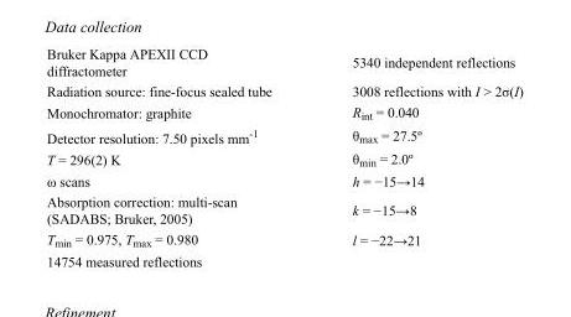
<table><tbody><tr><td>Bruker Kappa APEXII CCD diffractometer</td><td>5340 independent reflections</td></tr><tr><td>Radiation source: fine-focus sealed tube</td><td>3008 reflections with I &gt; 2σ(I)</td></tr><tr><td>Monochromator: graphite</td><td>R<sub>int</sub> = 0.040</td></tr><tr><td>Detector resolution: 7.50 pixels mm<sup>-1</sup></td><td>θ<sub>max</sub> = 27.5º</td></tr><tr><td>T = 296(2) K</td><td>θ<sub>min</sub> = 2.0º</td></tr><tr><td>ω scans</td><td>h = −15→14</td></tr><tr><td>Absorption correction: multi-scan (SADABS; Bruker, 2005)</td><td>k = −15→8</td></tr><tr><td>T<sub>min</sub> = 0.975, T<sub>max</sub> = 0.980</td><td>l = −22→21</td></tr><tr><td>14754 measured reflections</td><td></td></tr></tbody></table>